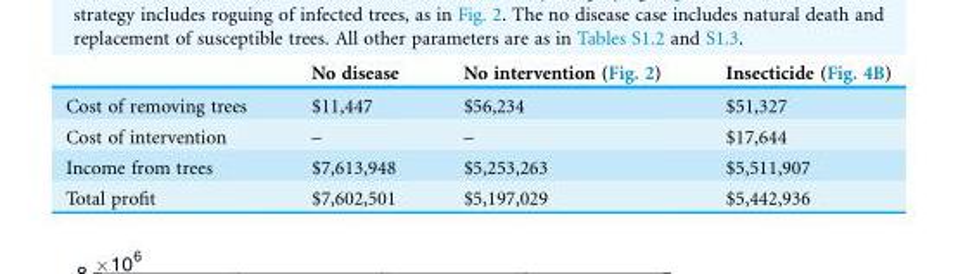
<table><thead><tr><td></td><td>No disease</td><td>No intervention (Fig. 2)</td><td>Insecticide (Fig. 4B)</td></tr></thead><tbody><tr><td>Cost of removing trees</td><td>$11,447</td><td>$56,234</td><td>$51,327</td></tr><tr><td>Cost of intervention</td><td>–</td><td>–</td><td>$17,644</td></tr><tr><td>Income from trees</td><td>$7,613,948</td><td>$5,253,263</td><td>$5,511,907</td></tr><tr><td>Total profit</td><td>$7,602,501</td><td>$5,197,029</td><td>$5,442,936</td></tr></tbody></table>